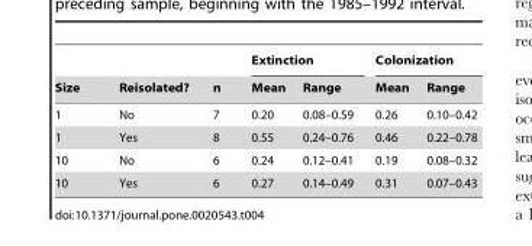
<table><thead><tr><td rowspan="2">Size</td><td rowspan="2">Reisolated?</td><td rowspan="2">n</td><td colspan="2">Extinction</td><td colspan="2">Colonization</td></tr><tr><td>Mean</td><td>Range</td><td>Mean</td><td>Range</td></tr></thead><tbody><tr><td>1</td><td>No</td><td>7</td><td>0.20</td><td>0.08–0.59</td><td>0.26</td><td>0.10–0.42</td></tr><tr><td>1</td><td>Yes</td><td>8</td><td>0.55</td><td>0.24–0.76</td><td>0.46</td><td>0.22–0.78</td></tr><tr><td>10</td><td>No</td><td>6</td><td>0.24</td><td>0.12–0.41</td><td>0.19</td><td>0.08–0.32</td></tr><tr><td>10</td><td>Yes</td><td>6</td><td>0.27</td><td>0.14–0.49</td><td>0.31</td><td>0.07–0.43</td></tr></tbody></table>